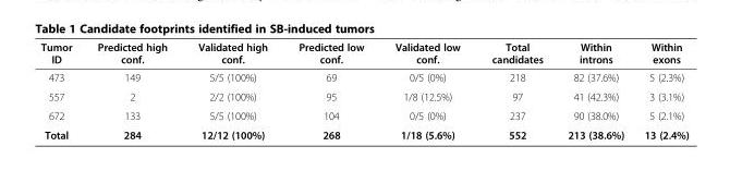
<table><thead><tr><td>Tumor ID</td><td>Predicted high conf.</td><td>Validated high conf.</td><td>Predicted low conf.</td><td>Validated low conf.</td><td>Total candidates</td><td>Within introns</td><td>Within exons</td></tr></thead><tbody><tr><td>473</td><td>149</td><td>5/5 (100%)</td><td>69</td><td>0/5 (0%)</td><td>218</td><td>82 (37.6%)</td><td>5 (2.3%)</td></tr><tr><td>557</td><td>2</td><td>2/2 (100%)</td><td>95</td><td>1/8 (12.5%)</td><td>97</td><td>41 (42.3%)</td><td>3 (3.1%)</td></tr><tr><td>672</td><td>133</td><td>5/5 (100%)</td><td>104</td><td>0/5 (0%)</td><td>237</td><td>90 (38.0%)</td><td>5 (2.1%)</td></tr><tr><td>Total</td><td>284</td><td>12/12 (100%)</td><td>268</td><td>1/18 (5.6%)</td><td>552</td><td>213 (38.6%)</td><td>13 (2.4%)</td></tr></tbody></table>